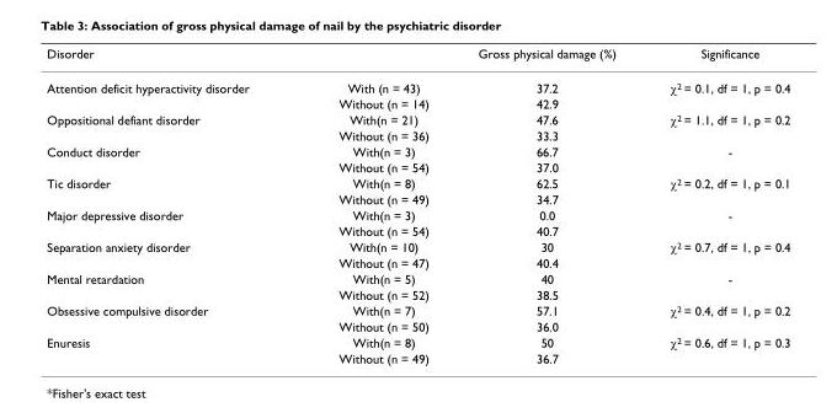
<table><thead><tr><td>Disorder</td><td></td><td>Gross physical damage (%)</td><td>Significance</td></tr></thead><tbody><tr><td rowspan="2">Attention deficit hyperactivity disorder</td><td>With (n = 43)</td><td>37.2</td><td>χ<sup>2</sup> = 0.1, df = 1, p = 0.4</td></tr><tr><td>Without (n = 14)</td><td>42.9</td><td></td></tr><tr><td rowspan="2">Oppositional defiant disorder</td><td>With(n = 21)</td><td>47.6</td><td>χ<sup>2</sup> = 1.1, df = 1, p = 0.2</td></tr><tr><td>Without (n = 36)</td><td>33.3</td><td></td></tr><tr><td rowspan="2">Conduct disorder</td><td>With(n = 3)</td><td>66.7</td><td>-</td></tr><tr><td>Without (n = 54)</td><td>37.0</td><td></td></tr><tr><td rowspan="2">Tic disorder</td><td>With(n = 8)</td><td>62.5</td><td>χ<sup>2</sup> = 0.2, df = 1, p = 0.1</td></tr><tr><td>Without (n = 49)</td><td>34.7</td><td></td></tr><tr><td rowspan="2">Major depressive disorder</td><td>With(n = 3)</td><td>0.0</td><td>-</td></tr><tr><td>Without (n = 54)</td><td>40.7</td><td></td></tr><tr><td rowspan="2">Separation anxiety disorder</td><td>With(n = 10)</td><td>30</td><td>χ<sup>2</sup> = 0.7, df = 1, p = 0.4</td></tr><tr><td>Without (n = 47)</td><td>40.4</td><td></td></tr><tr><td rowspan="2">Mental retardation</td><td>With(n = 5)</td><td>40</td><td>-</td></tr><tr><td>Without (n = 52)</td><td>38.5</td><td></td></tr><tr><td rowspan="2">Obsessive compulsive disorder</td><td>With(n = 7)</td><td>57.1</td><td>χ<sup>2</sup> = 0.4, df = 1, p = 0.2</td></tr><tr><td>Without (n = 50)</td><td>36.0</td><td></td></tr><tr><td rowspan="2">Enuresis</td><td>With(n = 8)</td><td>50</td><td>χ<sup>2</sup> = 0.6, df = 1, p = 0.3</td></tr><tr><td>Without (n = 49)</td><td>36.7</td><td></td></tr></tbody></table>